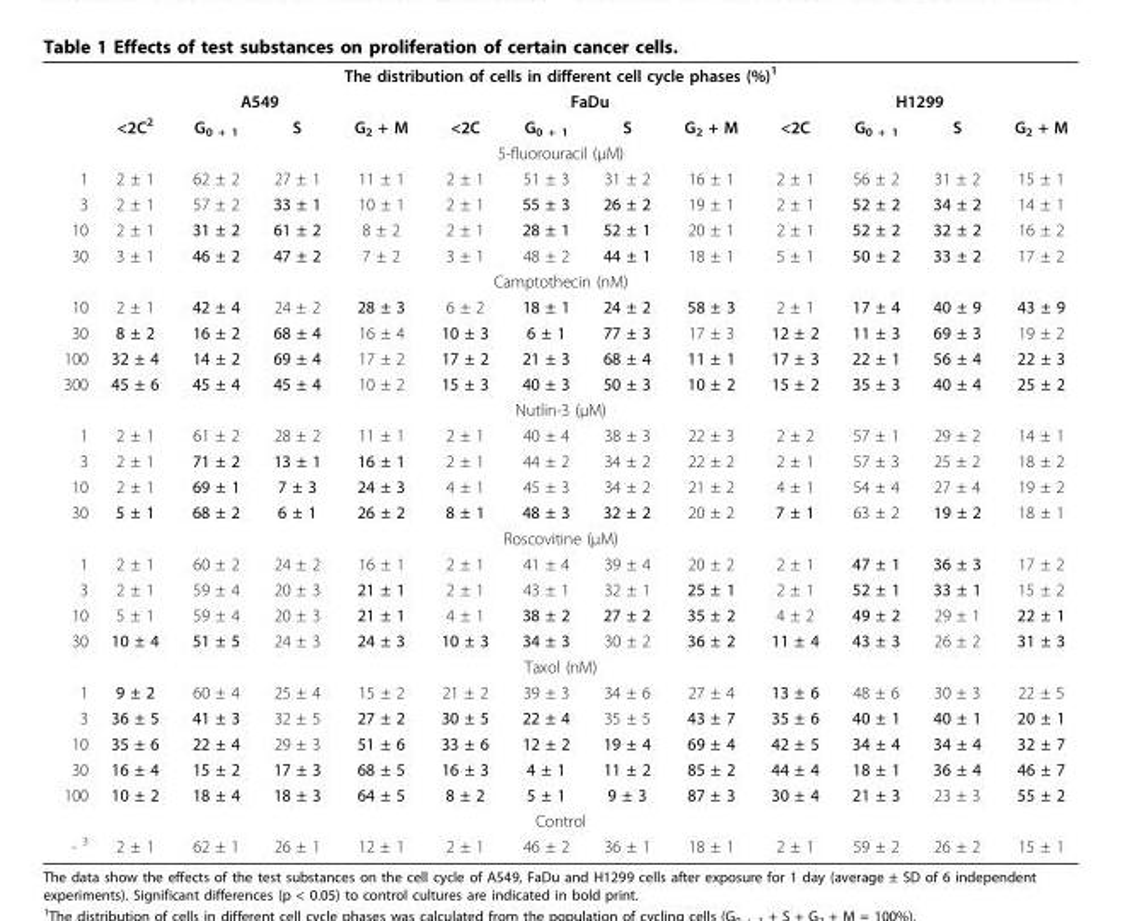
<table><tbody><tr><td colspan="13">The distribution of cells in different cell cycle phases (%)<sup>1</sup></td></tr><tr><td></td><td colspan="4">A549</td><td colspan="4">FaDu</td><td colspan="4">H1299</td></tr><tr><td></td><td>&lt;2C<sup>2</sup></td><td>G<sub>0 + 1</sub></td><td>S</td><td>G<sub>2</sub> + M</td><td>&lt;2C</td><td>G<sub>0 + 1</sub></td><td>S</td><td>G<sub>2</sub> + M</td><td>&lt;2C</td><td>G<sub>0 + 1</sub></td><td>S</td><td>G<sub>2</sub> + M</td></tr><tr><td colspan="13">5-fluorouracil (μM)</td></tr><tr><td>1</td><td>2 ± 1</td><td>62 ± 2</td><td>27 ± 1</td><td>11 ± 1</td><td>2 ± 1</td><td>51 ± 3</td><td>31 ± 2</td><td>16 ± 1</td><td>2 ± 1</td><td>56 ± 2</td><td>31 ± 2</td><td>15 ± 1</td></tr><tr><td>3</td><td>2 ± 1</td><td>57 ± 2</td><td>33 ± 1</td><td>10 ± 1</td><td>2 ± 1</td><td>55 ± 3</td><td>26 ± 2</td><td>19 ± 1</td><td>2 ± 1</td><td>52 ± 2</td><td>34 ± 2</td><td>14 ± 1</td></tr><tr><td>10</td><td>2 ± 1</td><td>31 ± 2</td><td>61 ± 2</td><td>8 ± 2</td><td>2 ± 1</td><td>28 ± 1</td><td>52 ± 1</td><td>20 ± 1</td><td>2 ± 1</td><td>52 ± 2</td><td>32 ± 2</td><td>16 ± 2</td></tr><tr><td>30</td><td>3 ± 1</td><td>46 ± 2</td><td>47 ± 2</td><td>7 ± 2</td><td>3 ± 1</td><td>48 ± 2</td><td>44 ± 1</td><td>18 ± 1</td><td>5 ± 1</td><td>50 ± 2</td><td>33 ± 2</td><td>17 ± 2</td></tr><tr><td colspan="13">Camptothecin (nM)</td></tr><tr><td>10</td><td>2 ± 1</td><td>42 ± 4</td><td>24 ± 2</td><td>28 ± 3</td><td>6 ± 2</td><td>18 ± 1</td><td>24 ± 2</td><td>58 ± 3</td><td>2 ± 1</td><td>17 ± 4</td><td>40 ± 9</td><td>43 ± 9</td></tr><tr><td>30</td><td>8 ± 2</td><td>16 ± 2</td><td>68 ± 4</td><td>16 ± 4</td><td>10 ± 3</td><td>6 ± 1</td><td>77 ± 3</td><td>17 ± 3</td><td>12 ± 2</td><td>11 ± 3</td><td>69 ± 3</td><td>19 ± 2</td></tr><tr><td>100</td><td>32 ± 4</td><td>14 ± 2</td><td>69 ± 4</td><td>17 ± 2</td><td>17 ± 2</td><td>21 ± 3</td><td>68 ± 4</td><td>11 ± 1</td><td>17 ± 3</td><td>22 ± 1</td><td>56 ± 4</td><td>22 ± 3</td></tr><tr><td>300</td><td>45 ± 6</td><td>45 ± 4</td><td>45 ± 4</td><td>10 ± 2</td><td>15 ± 3</td><td>40 ± 3</td><td>50 ± 3</td><td>10 ± 2</td><td>15 ± 2</td><td>35 ± 3</td><td>40 ± 4</td><td>25 ± 2</td></tr><tr><td colspan="13">Nutlin-3 (μM)</td></tr><tr><td>1</td><td>2 ± 1</td><td>61 ± 2</td><td>28 ± 2</td><td>11 ± 1</td><td>2 ± 1</td><td>40 ± 4</td><td>38 ± 3</td><td>22 ± 3</td><td>2 ± 2</td><td>57 ± 1</td><td>29 ± 2</td><td>14 ± 1</td></tr><tr><td>3</td><td>2 ± 1</td><td>71 ± 2</td><td>13 ± 1</td><td>16 ± 1</td><td>2 ± 1</td><td>44 ± 2</td><td>34 ± 2</td><td>22 ± 2</td><td>2 ± 1</td><td>57 ± 3</td><td>25 ± 2</td><td>18 ± 2</td></tr><tr><td>10</td><td>2 ± 1</td><td>69 ± 1</td><td>7 ± 3</td><td>24 ± 3</td><td>4 ± 1</td><td>45 ± 3</td><td>34 ± 2</td><td>21 ± 2</td><td>4 ± 1</td><td>54 ± 4</td><td>27 ± 4</td><td>19 ± 2</td></tr><tr><td>30</td><td>5 ± 1</td><td>68 ± 2</td><td>6 ± 1</td><td>26 ± 2</td><td>8 ± 1</td><td>48 ± 3</td><td>32 ± 2</td><td>20 ± 2</td><td>7 ± 1</td><td>63 ± 2</td><td>19 ± 2</td><td>18 ± 1</td></tr><tr><td colspan="13">Roscovitine (μM)</td></tr><tr><td>1</td><td>2 ± 1</td><td>60 ± 2</td><td>24 ± 2</td><td>16 ± 1</td><td>2 ± 1</td><td>41 ± 4</td><td>39 ± 4</td><td>20 ± 2</td><td>2 ± 1</td><td>47 ± 1</td><td>36 ± 3</td><td>17 ± 2</td></tr><tr><td>3</td><td>2 ± 1</td><td>59 ± 4</td><td>20 ± 3</td><td>21 ± 1</td><td>2 ± 1</td><td>43 ± 1</td><td>32 ± 1</td><td>25 ± 1</td><td>2 ± 1</td><td>52 ± 1</td><td>33 ± 1</td><td>15 ± 2</td></tr><tr><td>10</td><td>5 ± 1</td><td>59 ± 4</td><td>20 ± 3</td><td>21 ± 1</td><td>4 ± 1</td><td>38 ± 2</td><td>27 ± 2</td><td>35 ± 2</td><td>4 ± 2</td><td>49 ± 2</td><td>29 ± 1</td><td>22 ± 1</td></tr><tr><td>30</td><td>10 ± 4</td><td>51 ± 5</td><td>24 ± 3</td><td>24 ± 3</td><td>10 ± 3</td><td>34 ± 3</td><td>30 ± 2</td><td>36 ± 2</td><td>11 ± 4</td><td>43 ± 3</td><td>26 ± 2</td><td>31 ± 3</td></tr><tr><td colspan="13">Taxol (nM)</td></tr><tr><td>1</td><td>9 ± 2</td><td>60 ± 4</td><td>25 ± 4</td><td>15 ± 2</td><td>21 ± 2</td><td>39 ± 3</td><td>34 ± 6</td><td>27 ± 4</td><td>13 ± 6</td><td>48 ± 6</td><td>30 ± 3</td><td>22 ± 5</td></tr><tr><td>3</td><td>36 ± 5</td><td>41 ± 3</td><td>32 ± 5</td><td>27 ± 2</td><td>30 ± 5</td><td>22 ± 4</td><td>35 ± 5</td><td>43 ± 7</td><td>35 ± 6</td><td>40 ± 1</td><td>40 ± 1</td><td>20 ± 1</td></tr><tr><td>10</td><td>35 ± 6</td><td>22 ± 4</td><td>29 ± 3</td><td>51 ± 6</td><td>33 ± 6</td><td>12 ± 2</td><td>19 ± 4</td><td>69 ± 4</td><td>42 ± 5</td><td>34 ± 4</td><td>34 ± 4</td><td>32 ± 7</td></tr><tr><td>30</td><td>16 ± 4</td><td>15 ± 2</td><td>17 ± 3</td><td>68 ± 5</td><td>16 ± 3</td><td>4 ± 1</td><td>11 ± 2</td><td>85 ± 2</td><td>44 ± 4</td><td>18 ± 1</td><td>36 ± 4</td><td>46 ± 7</td></tr><tr><td>100</td><td>10 ± 2</td><td>18 ± 4</td><td>18 ± 3</td><td>64 ± 5</td><td>8 ± 2</td><td>5 ± 1</td><td>9 ± 3</td><td>87 ± 3</td><td>30 ± 4</td><td>21 ± 3</td><td>23 ± 3</td><td>55 ± 2</td></tr><tr><td colspan="13">Control</td></tr><tr><td>- <sup>3</sup></td><td>2 ± 1</td><td>62 ± 1</td><td>26 ± 1</td><td>12 ± 1</td><td>2 ± 1</td><td>46 ± 2</td><td>36 ± 1</td><td>18 ± 1</td><td>2 ± 1</td><td>59 ± 2</td><td>26 ± 2</td><td>15 ± 1</td></tr></tbody></table>